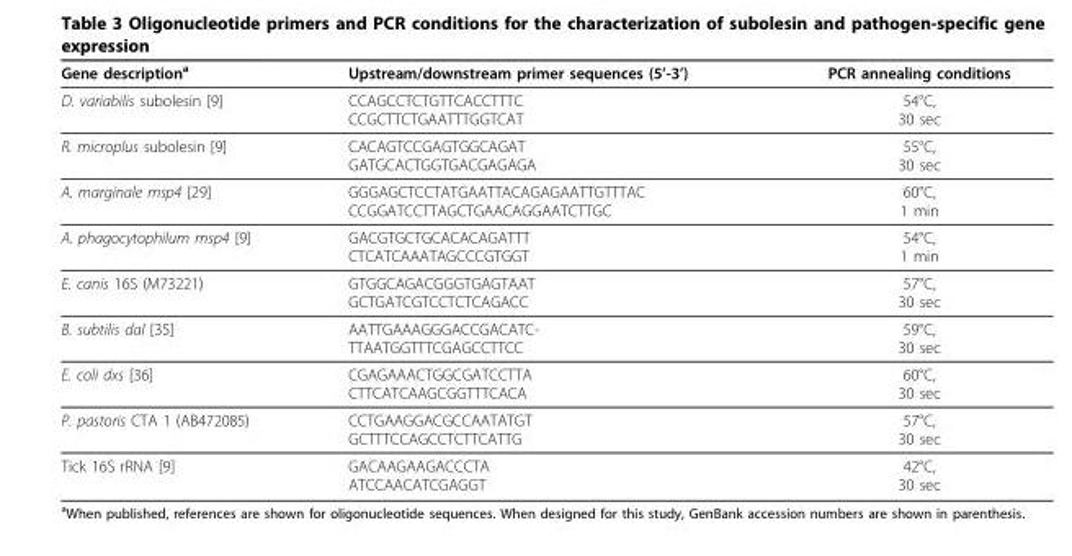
<table><thead><tr><td>Gene description<sup>a</sup></td><td>Upstream/downstream primer sequences (5’-3’)</td><td>PCR annealing conditions</td></tr></thead><tbody><tr><td>D. variabilis subolesin [9]</td><td>CCAGCCTCTGTTCACCTTTC CCGCTTCTGAATTTGGTCAT</td><td>54°C, 30 sec</td></tr><tr><td>R. microplus subolesin [9]</td><td>CACAGTCCGAGTGGCAGAT GATGCACTGGTGACGAGAGA</td><td>55°C, 30 sec</td></tr><tr><td>A. marginale msp4 [29]</td><td>GGGAGCTCCTATGAATTACAGAGAATTGTTTAC CCGGATCCTTAGCTGAACAGGAATCTTGC</td><td>60°C, 1 min</td></tr><tr><td>A. phagocytophilum msp4 [9]</td><td>GACGTGCTGCACACAGATTT CTCATCAAATAGCCCGTGGT</td><td>54°C, 1 min</td></tr><tr><td>E. canis 16S (M73221)</td><td>GTGGCAGACGGGTGAGTAAT GCTGATCGTCCTCTCAGACC</td><td>57°C, 30 sec</td></tr><tr><td>B. subtilis dal [35]</td><td>AATTGAAAGGGACCGACATC- TTAATGGTTTCGAGCCTTCC</td><td>59°C, 30 sec</td></tr><tr><td>E. coli dxs [36]</td><td>CGAGAAACTGGCGATCCTTA CTTCATCAAGCGGTTTCACA</td><td>60°C, 30 sec</td></tr><tr><td>P. pastoris CTA 1 (AB472085)</td><td>CCTGAAGGACGCCAATATGT GCTTTCCAGCCTCTTCATTG</td><td>57°C, 30 sec</td></tr><tr><td>Tick 16S rRNA [9]</td><td>GACAAGAAGACCCTA ATCCAACATCGAGGT</td><td>42°C, 30 sec</td></tr></tbody></table>